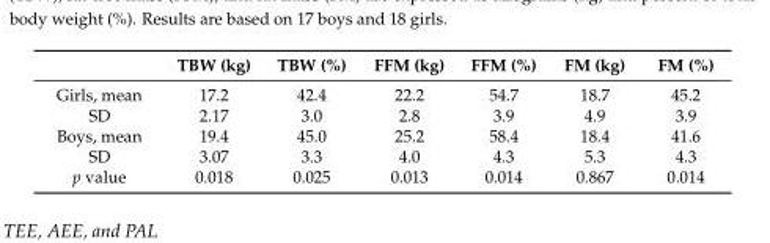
<table><thead><tr><td></td><td>TBW (kg)</td><td>TBW (%)</td><td>FFM (kg)</td><td>FFM (%)</td><td>FM (kg)</td><td>FM (%)</td></tr></thead><tbody><tr><td>Girls, mean</td><td>17.2</td><td>42.4</td><td>22.2</td><td>54.7</td><td>18.7</td><td>45.2</td></tr><tr><td>SD</td><td>2.17</td><td>3.0</td><td>2.8</td><td>3.9</td><td>4.9</td><td>3.9</td></tr><tr><td>Boys, mean</td><td>19.4</td><td>45.0</td><td>25.2</td><td>58.4</td><td>18.4</td><td>41.6</td></tr><tr><td>SD</td><td>3.07</td><td>3.3</td><td>4.0</td><td>4.3</td><td>5.3</td><td>4.3</td></tr><tr><td>p value</td><td>0.018</td><td>0.025</td><td>0.013</td><td>0.014</td><td>0.867</td><td>0.014</td></tr></tbody></table>